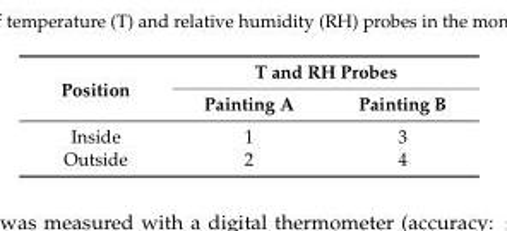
<table><thead><tr><td rowspan="2">Position</td><td colspan="2">T and RH Probes</td></tr><tr><td>Painting A</td><td>Painting B</td></tr></thead><tbody><tr><td>Inside</td><td>1</td><td>3</td></tr><tr><td>Outside</td><td>2</td><td>4</td></tr></tbody></table>